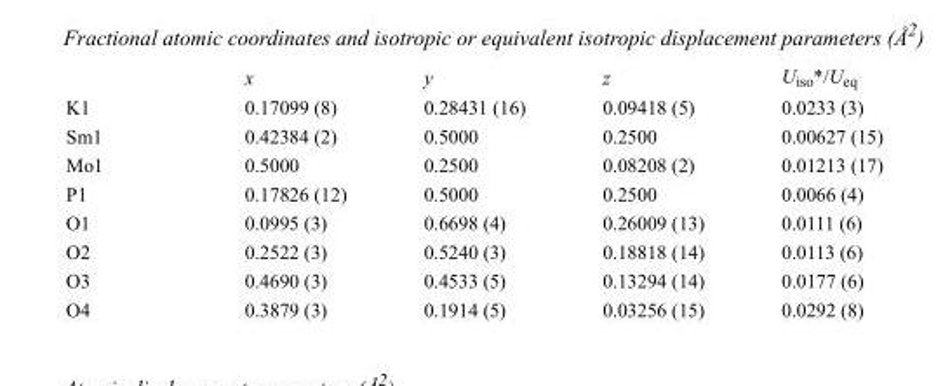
<table><thead><tr><td></td><td>x</td><td>y</td><td>z</td><td>U<sub>iso</sub>*/U<sub>eq</sub></td></tr></thead><tbody><tr><td>K1</td><td>0.17099 (8)</td><td>0.28431 (16)</td><td>0.09418 (5)</td><td>0.0233 (3)</td></tr><tr><td>Sm1</td><td>0.42384 (2)</td><td>0.5000</td><td>0.2500</td><td>0.00627 (15)</td></tr><tr><td>Mo1</td><td>0.5000</td><td>0.2500</td><td>0.08208 (2)</td><td>0.01213 (17)</td></tr><tr><td>P1</td><td>0.17826 (12)</td><td>0.5000</td><td>0.2500</td><td>0.0066 (4)</td></tr><tr><td>O1</td><td>0.0995 (3)</td><td>0.6698 (4)</td><td>0.26009 (13)</td><td>0.0111 (6)</td></tr><tr><td>O2</td><td>0.2522 (3)</td><td>0.5240 (3)</td><td>0.18818 (14)</td><td>0.0113 (6)</td></tr><tr><td>O3</td><td>0.4690 (3)</td><td>0.4533 (5)</td><td>0.13294 (14)</td><td>0.0177 (6)</td></tr><tr><td>O4</td><td>0.3879 (3)</td><td>0.1914 (5)</td><td>0.03256 (15)</td><td>0.0292 (8)</td></tr></tbody></table>